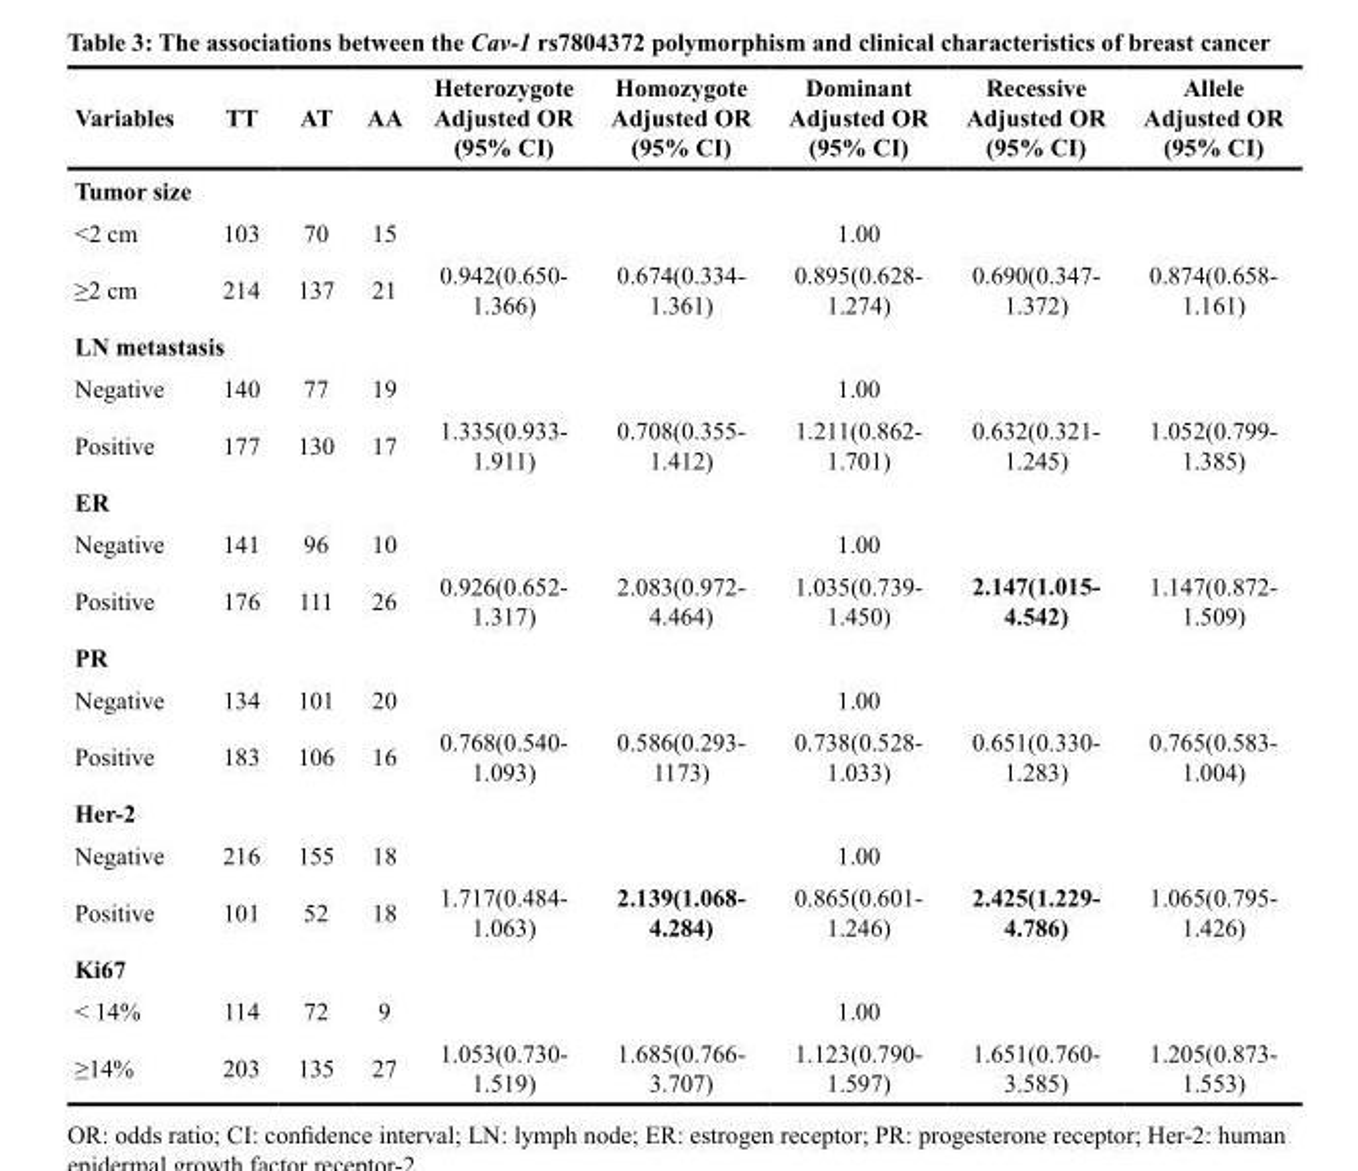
<table><thead><tr><td>Variables</td><td>TT</td><td>AT</td><td>AA</td><td>Heterozygote Adjusted OR (95% CI)</td><td>Homozygote Adjusted OR (95% CI)</td><td>Dominant Adjusted OR (95% CI)</td><td>Recessive Adjusted OR (95% CI)</td><td>Allele Adjusted OR (95% CI)</td></tr></thead><tbody><tr><td colspan="9">Tumor size</td></tr><tr><td>&lt;2 cm</td><td>103</td><td>70</td><td>15</td><td colspan="5">1.00</td></tr><tr><td>≥2 cm</td><td>214</td><td>137</td><td>21</td><td>0.942(0.650- 1.366)</td><td>0.674(0.334- 1.361)</td><td>0.895(0.628- 1.274)</td><td>0.690(0.347- 1.372)</td><td>0.874(0.658- 1.161)</td></tr><tr><td colspan="9">LN metastasis</td></tr><tr><td>Negative</td><td>140</td><td>77</td><td>19</td><td colspan="5">1.00</td></tr><tr><td>Positive</td><td>177</td><td>130</td><td>17</td><td>1.335(0.933- 1.911)</td><td>0.708(0.355- 1.412)</td><td>1.211(0.862- 1.701)</td><td>0.632(0.321- 1.245)</td><td>1.052(0.799- 1.385)</td></tr><tr><td colspan="9">ER</td></tr><tr><td>Negative</td><td>141</td><td>96</td><td>10</td><td colspan="5">1.00</td></tr><tr><td>Positive</td><td>176</td><td>111</td><td>26</td><td>0.926(0.652- 1.317)</td><td>2.083(0.972- 4.464)</td><td>1.035(0.739- 1.450)</td><td>2.147(1.015- 4.542)</td><td>1.147(0.872- 1.509)</td></tr><tr><td colspan="9">PR</td></tr><tr><td>Negative</td><td>134</td><td>101</td><td>20</td><td colspan="5">1.00</td></tr><tr><td>Positive</td><td>183</td><td>106</td><td>16</td><td>0.768(0.540- 1.093)</td><td>0.586(0.293- 1173)</td><td>0.738(0.528- 1.033)</td><td>0.651(0.330- 1.283)</td><td>0.765(0.583- 1.004)</td></tr><tr><td colspan="9">Her-2</td></tr><tr><td>Negative</td><td>216</td><td>155</td><td>18</td><td colspan="5">1.00</td></tr><tr><td>Positive</td><td>101</td><td>52</td><td>18</td><td>1.717(0.484- 1.063)</td><td>2.139(1.068- 4.284)</td><td>0.865(0.601- 1.246)</td><td>2.425(1.229- 4.786)</td><td>1.065(0.795- 1.426)</td></tr><tr><td colspan="9">Ki67</td></tr><tr><td>&lt; 14%</td><td>114</td><td>72</td><td>9</td><td colspan="5">1.00</td></tr><tr><td>≥14%</td><td>203</td><td>135</td><td>27</td><td>1.053(0.730- 1.519)</td><td>1.685(0.766- 3.707)</td><td>1.123(0.790- 1.597)</td><td>1.651(0.760- 3.585)</td><td>1.205(0.873- 1.553)</td></tr></tbody></table>